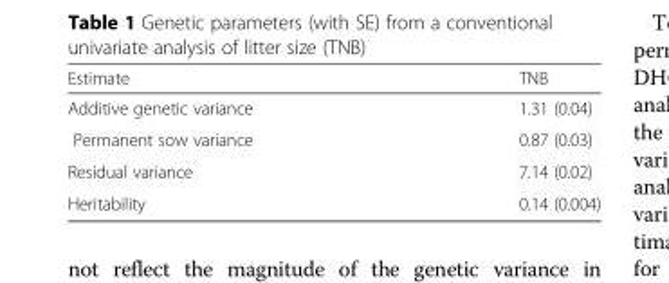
<table><thead><tr><td>Estimate</td><td>TNB</td></tr></thead><tbody><tr><td>Additive genetic variance</td><td>1.31 (0.04)</td></tr><tr><td>Permanent sow variance</td><td>0.87 (0.03)</td></tr><tr><td>Residual variance</td><td>7.14 (0.02)</td></tr><tr><td>Heritability</td><td>0.14 (0.004)</td></tr></tbody></table>